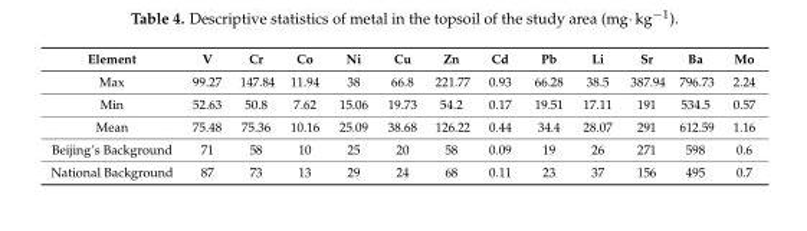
<table><thead><tr><td>Element</td><td>V</td><td>Cr</td><td>Co</td><td>Ni</td><td>Cu</td><td>Zn</td><td>Cd</td><td>Pb</td><td>Li</td><td>Sr</td><td>Ba</td><td>Mo</td></tr></thead><tbody><tr><td>Max</td><td>99.27</td><td>147.84</td><td>11.94</td><td>38</td><td>66.8</td><td>221.77</td><td>0.93</td><td>66.28</td><td>38.5</td><td>387.94</td><td>796.73</td><td>2.24</td></tr><tr><td>Min</td><td>52.63</td><td>50.8</td><td>7.62</td><td>15.06</td><td>19.73</td><td>54.2</td><td>0.17</td><td>19.51</td><td>17.11</td><td>191</td><td>534.5</td><td>0.57</td></tr><tr><td>Mean</td><td>75.48</td><td>75.36</td><td>10.16</td><td>25.09</td><td>38.68</td><td>126.22</td><td>0.44</td><td>34.4</td><td>28.07</td><td>291</td><td>612.59</td><td>1.16</td></tr><tr><td>Beijing’s Background</td><td>71</td><td>58</td><td>10</td><td>25</td><td>20</td><td>58</td><td>0.09</td><td>19</td><td>26</td><td>271</td><td>598</td><td>0.6</td></tr><tr><td>National Background</td><td>87</td><td>73</td><td>13</td><td>29</td><td>24</td><td>68</td><td>0.11</td><td>23</td><td>37</td><td>156</td><td>495</td><td>0.7</td></tr></tbody></table>